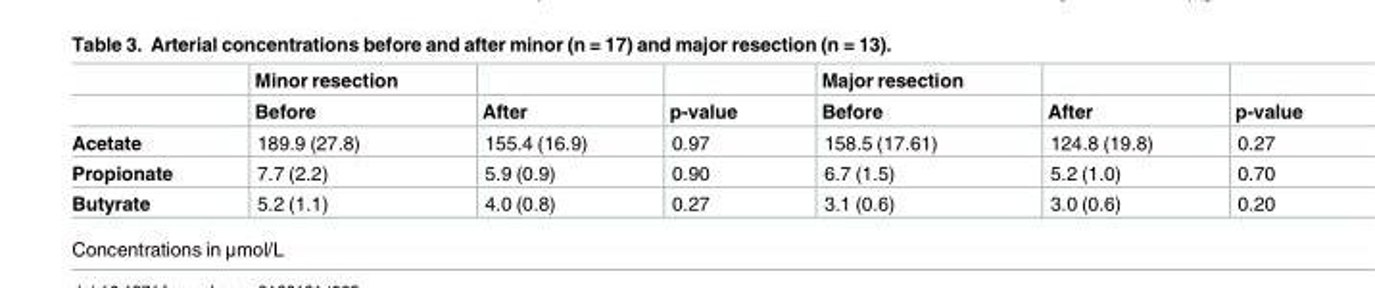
<table><thead><tr><td rowspan="2"></td><td rowspan="2">Minor resection Before</td><td rowspan="2">After</td><td rowspan="2">p-value</td><td rowspan="2">Major resection Before</td><td rowspan="2">After</td><td rowspan="2">p-value</td></tr><tr></tr></thead><tbody><tr><td>Acetate</td><td>189.9 (27.8)</td><td>155.4 (16.9)</td><td>0.97</td><td>158.5 (17.61)</td><td>124.8 (19.8)</td><td>0.27</td></tr><tr><td>Propionate</td><td>7.7 (2.2)</td><td>5.9 (0.9)</td><td>0.90</td><td>6.7 (1.5)</td><td>5.2 (1.0)</td><td>0.70</td></tr><tr><td>Butyrate</td><td>5.2 (1.1)</td><td>4.0 (0.8)</td><td>0.27</td><td>3.1 (0.6)</td><td>3.0 (0.6)</td><td>0.20</td></tr></tbody></table>